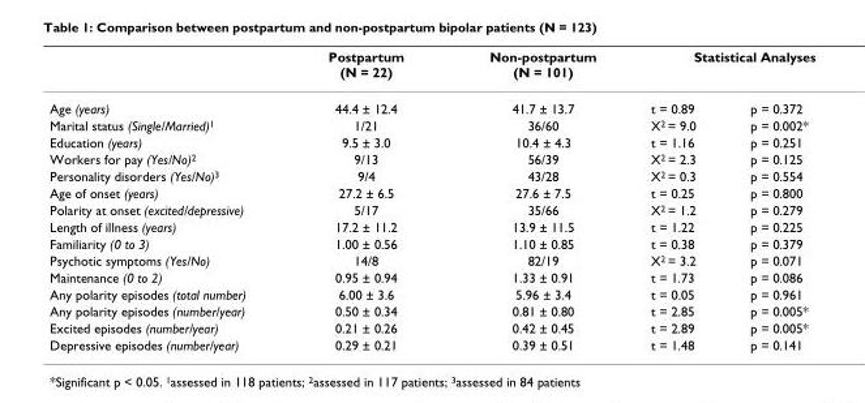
<table><thead><tr><td rowspan="2">Age (years)</td><td rowspan="2">Postpartum (N = 22) 44.4 ± 12.4</td><td rowspan="2">Non-postpartum (N = 101) 41.7 ± 13.7</td><td colspan="2">Statistical Analyses</td></tr><tr><td>t = 0.89</td><td>p = 0.372</td></tr></thead><tbody><tr><td>Marital status (Single/Married)<sup>1</sup></td><td>1/21</td><td>36/60</td><td>X<sup>2</sup> = 9.0</td><td>p = 0.002*</td></tr><tr><td>Education (years)</td><td>9.5 ± 3.0</td><td>10.4 ± 4.3</td><td>t = 1.16</td><td>p = 0.251</td></tr><tr><td>Workers for pay (Yes/No)<sup>2</sup></td><td>9/13</td><td>56/39</td><td>X<sup>2</sup> = 2.3</td><td>p = 0.125</td></tr><tr><td>Personality disorders (Yes/No)<sup>3</sup></td><td>9/4</td><td>43/28</td><td>X<sup>2</sup> = 0.3</td><td>p = 0.554</td></tr><tr><td>Age of onset (years)</td><td>27.2 ± 6.5</td><td>27.6 ± 7.5</td><td>t = 0.25</td><td>p = 0.800</td></tr><tr><td>Polarity at onset (excited/depressive)</td><td>5/17</td><td>35/66</td><td>X<sup>2</sup> = 1.2</td><td>p = 0.279</td></tr><tr><td>Length of illness (years)</td><td>17.2 ± 11.2</td><td>13.9 ± 11.5</td><td>t = 1.22</td><td>p = 0.225</td></tr><tr><td>Familiarity (0 to 3)</td><td>1.00 ± 0.56</td><td>1.10 ± 0.85</td><td>t = 0.38</td><td>p = 0.379</td></tr><tr><td>Psychotic symptoms (Yes/No)</td><td>14/8</td><td>82/19</td><td>X<sup>2</sup> = 3.2</td><td>p = 0.071</td></tr><tr><td>Maintenance (0 to 2)</td><td>0.95 ± 0.94</td><td>1.33 ± 0.91</td><td>t = 1.73</td><td>p = 0.086</td></tr><tr><td>Any polarity episodes (total number)</td><td>6.00 ± 3.6</td><td>5.96 ± 3.4</td><td>t = 0.05</td><td>p = 0.961</td></tr><tr><td>Any polarity episodes (number/year)</td><td>0.50 ± 0.34</td><td>0.81 ± 0.80</td><td>t = 2.85</td><td>p = 0.005*</td></tr><tr><td>Excited episodes (number/year)</td><td>0.21 ± 0.26</td><td>0.42 ± 0.45</td><td>t = 2.89</td><td>p = 0.005*</td></tr><tr><td>Depressive episodes (number/year)</td><td>0.29 ± 0.21</td><td>0.39 ± 0.51</td><td>t = 1.48</td><td>p = 0.141</td></tr></tbody></table>